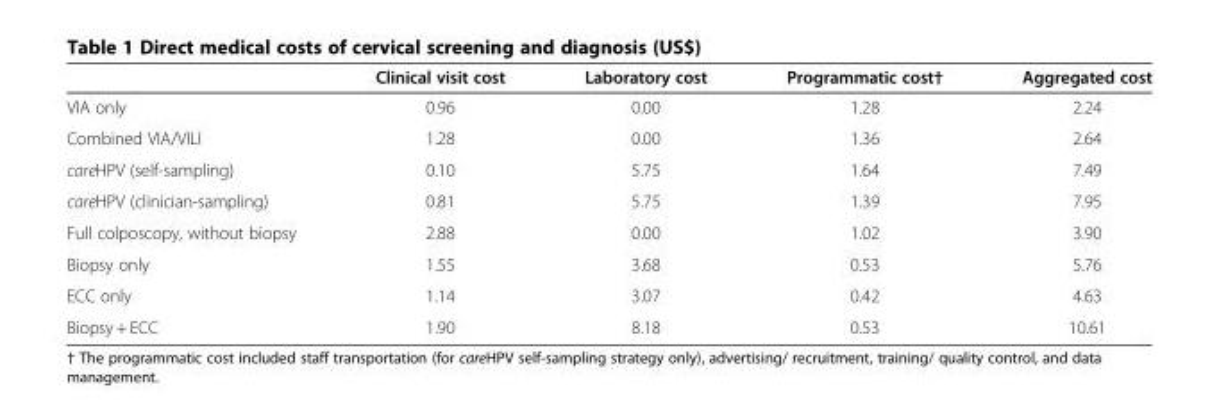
<table><thead><tr><td></td><td>Clinical visit cost</td><td>Laboratory cost</td><td>Programmatic cost†</td><td>Aggregated cost</td></tr></thead><tbody><tr><td>VIA only</td><td>0.96</td><td>0.00</td><td>1.28</td><td>2.24</td></tr><tr><td>Combined VIA/VILI</td><td>1.28</td><td>0.00</td><td>1.36</td><td>2.64</td></tr><tr><td>careHPV (self-sampling)</td><td>0.10</td><td>5.75</td><td>1.64</td><td>7.49</td></tr><tr><td>careHPV (clinician-sampling)</td><td>0.81</td><td>5.75</td><td>1.39</td><td>7.95</td></tr><tr><td>Full colposcopy, without biopsy</td><td>2.88</td><td>0.00</td><td>1.02</td><td>3.90</td></tr><tr><td>Biopsy only</td><td>1.55</td><td>3.68</td><td>0.53</td><td>5.76</td></tr><tr><td>ECC only</td><td>1.14</td><td>3.07</td><td>0.42</td><td>4.63</td></tr><tr><td>Biopsy + ECC</td><td>1.90</td><td>8.18</td><td>0.53</td><td>10.61</td></tr></tbody></table>